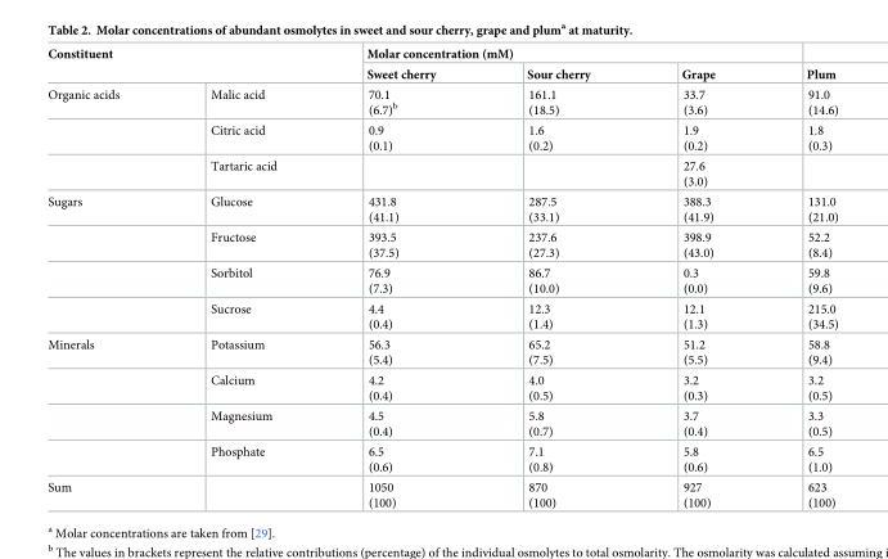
<table><thead><tr><td rowspan="2" colspan="2">Constituent</td><td colspan="3">Molar concentration (mM)</td><td rowspan="3">Plum 91.0 (14.6)</td></tr><tr><td rowspan="2">Sweet cherry 70.1 (6.7)<sup>b</sup></td><td rowspan="2">Sour cherry 161.1 (18.5)</td><td rowspan="2">Grape 33.7 (3.6)</td></tr><tr><td>Organic acids</td><td>Malic acid</td></tr></thead><tbody><tr><td></td><td>Citric acid</td><td>0.9 (0.1)</td><td>1.6 (0.2)</td><td>1.9 (0.2)</td><td>1.8 (0.3)</td></tr><tr><td></td><td>Tartaric acid</td><td></td><td></td><td>27.6 (3.0)</td><td></td></tr><tr><td rowspan="4">Sugars</td><td>Glucose</td><td>431.8 (41.1)</td><td>287.5 (33.1)</td><td>388.3 (41.9)</td><td>131.0 (21.0)</td></tr><tr><td>Fructose</td><td>393.5 (37.5)</td><td>237.6 (27.3)</td><td>398.9 (43.0)</td><td>52.2 (8.4)</td></tr><tr><td>Sorbitol</td><td>76.9 (7.3)</td><td>86.7 (10.0)</td><td>0.3 (0.0)</td><td>59.8 (9.6)</td></tr><tr><td>Sucrose</td><td>4.4 (0.4)</td><td>12.3 (1.4)</td><td>12.1 (1.3)</td><td>215.0 (34.5)</td></tr><tr><td rowspan="4">Minerals</td><td>Potassium</td><td>56.3 (5.4)</td><td>65.2 (7.5)</td><td>51.2 (5.5)</td><td>58.8 (9.4)</td></tr><tr><td>Calcium</td><td>4.2 (0.4)</td><td>4.0 (0.5)</td><td>3.2 (0.3)</td><td>3.2 (0.5)</td></tr><tr><td>Magnesium</td><td>4.5 (0.4)</td><td>5.8 (0.7)</td><td>3.7 (0.4)</td><td>3.3 (0.5)</td></tr><tr><td>Phosphate</td><td>6.5 (0.6)</td><td>7.1 (0.8)</td><td>5.8 (0.6)</td><td>6.5 (1.0)</td></tr><tr><td>Sum</td><td></td><td>1050 (100)</td><td>870 (100)</td><td>927 (100)</td><td>623 (100)</td></tr></tbody></table>